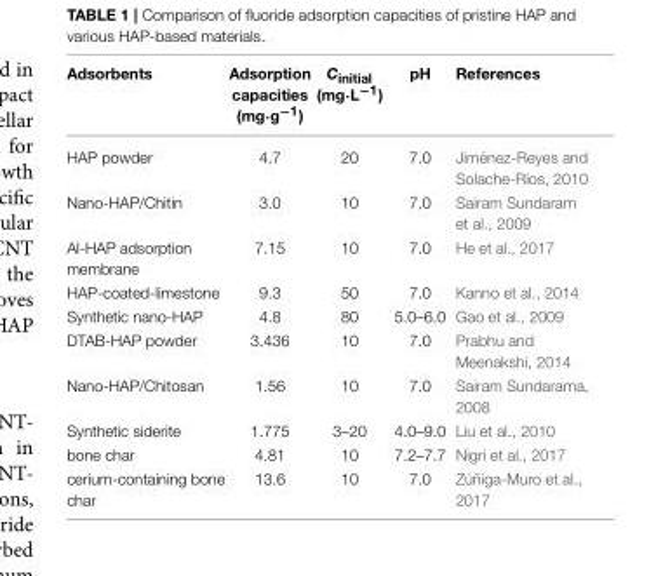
<table><thead><tr><td>Adsorbents</td><td>Adsorption capacities (mg·g<sup>−1</sup>)</td><td>C<sub>initial</sub> (mg·L<sup>−1</sup>)</td><td>pH</td><td>References</td></tr></thead><tbody><tr><td>HAP powder</td><td>4.7</td><td>20</td><td>7.0</td><td>Jiménez-Reyes and Solache-Ríos, 2010</td></tr><tr><td>Nano-HAP/Chitin</td><td>3.0</td><td>10</td><td>7.0</td><td>Sairam Sundaram et al., 2009</td></tr><tr><td>Al-HAP adsorption membrane</td><td>7.15</td><td>10</td><td>7.0</td><td>He et al., 2017</td></tr><tr><td>HAP-coated-limestone</td><td>9.3</td><td>50</td><td>7.0</td><td>Kanno et al., 2014</td></tr><tr><td>Synthetic nano-HAP</td><td>4.8</td><td>80</td><td>5.0–6.0</td><td>Gao et al., 2009</td></tr><tr><td>DTAB-HAP powder</td><td>3.436</td><td>10</td><td>7.0</td><td>Prabhu and Meenakshi, 2014</td></tr><tr><td>Nano-HAP/Chitosan</td><td>1.56</td><td>10</td><td>7.0</td><td>Sairam Sundarama, 2008</td></tr><tr><td>Synthetic siderite</td><td>1.775</td><td>3–20</td><td>4.0–9.0</td><td>Liu et al., 2010</td></tr><tr><td>bone char</td><td>4.81</td><td>10</td><td>7.2–7.7</td><td>Nigri et al., 2017</td></tr><tr><td>cerium-containing bone char</td><td>13.6</td><td>10</td><td>7.0</td><td>Zúñiga-Muro et al., 2017</td></tr></tbody></table>